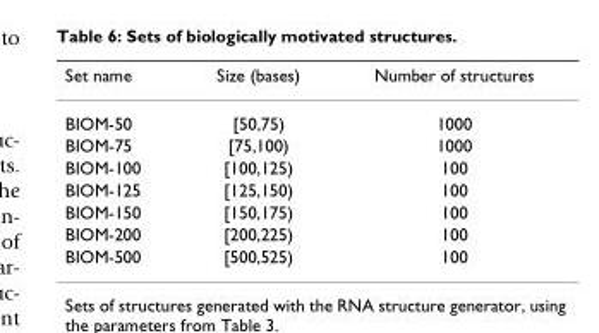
<table><thead><tr><td>Set name</td><td>Size (bases)</td><td>Number of structures</td></tr></thead><tbody><tr><td>BIOM-50</td><td>[50,75)</td><td>1000</td></tr><tr><td>BIOM-75</td><td>[75,100)</td><td>1000</td></tr><tr><td>BIOM-100</td><td>[100,125)</td><td>100</td></tr><tr><td>BIOM-125</td><td>[125,150)</td><td>100</td></tr><tr><td>BIOM-150</td><td>[150,175)</td><td>100</td></tr><tr><td>BIOM-200</td><td>[200,225)</td><td>100</td></tr><tr><td>BIOM-500</td><td>[500,525)</td><td>100</td></tr></tbody></table>